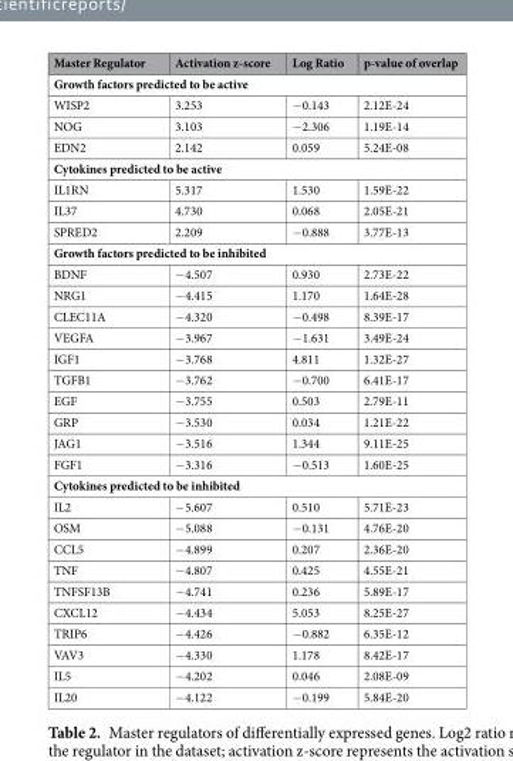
<table><thead><tr><td>Master Regulator</td><td>Activation z-score</td><td>Log Ratio</td><td>p-value of overlap</td></tr></thead><tbody><tr><td colspan="4">Growth factors predicted to be active</td></tr><tr><td>WISP2</td><td>3.253</td><td>−0.143</td><td>2.12E-24</td></tr><tr><td>NOG</td><td>3.103</td><td>−2.306</td><td>1.19E-14</td></tr><tr><td>EDN2</td><td>2.142</td><td>0.059</td><td>5.24E-08</td></tr><tr><td colspan="4">Cytokines predicted to be active</td></tr><tr><td>IL1RN</td><td>5.317</td><td>1.530</td><td>1.59E-22</td></tr><tr><td>IL37</td><td>4.730</td><td>0.068</td><td>2.05E-21</td></tr><tr><td>SPRED2</td><td>2.209</td><td>−0.888</td><td>3.77E-13</td></tr><tr><td colspan="4">Growth factors predicted to be inhibited</td></tr><tr><td>BDNF</td><td>−4.507</td><td>0.930</td><td>2.73E-22</td></tr><tr><td>NRG1</td><td>−4.415</td><td>1.170</td><td>1.64E-28</td></tr><tr><td>CLEC11A</td><td>−4.320</td><td>−0.498</td><td>8.39E-17</td></tr><tr><td>VEGFA</td><td>−3.967</td><td>−1.631</td><td>3.49E-24</td></tr><tr><td>IGF1</td><td>−3.768</td><td>4.811</td><td>1.32E-27</td></tr><tr><td>TGFB1</td><td>−3.762</td><td>−0.700</td><td>6.41E-17</td></tr><tr><td>EGF</td><td>−3.755</td><td>0.503</td><td>2.79E-11</td></tr><tr><td>GRP</td><td>−3.530</td><td>0.034</td><td>1.21E-22</td></tr><tr><td>JAG1</td><td>−3.516</td><td>1.344</td><td>9.11E-25</td></tr><tr><td>FGF1</td><td>−3.316</td><td>−0.513</td><td>1.60E-25</td></tr><tr><td colspan="4">Cytokines predicted to be inhibited</td></tr><tr><td>IL2</td><td>−5.607</td><td>0.510</td><td>5.71E-23</td></tr><tr><td>OSM</td><td>−5.088</td><td>−0.131</td><td>4.76E-20</td></tr><tr><td>CCL5</td><td>−4.899</td><td>0.207</td><td>2.36E-20</td></tr><tr><td>TNF</td><td>−4.807</td><td>0.425</td><td>4.55E-21</td></tr><tr><td>TNFSF13B</td><td>−4.741</td><td>0.236</td><td>5.89E-17</td></tr><tr><td>CXCL12</td><td>−4.434</td><td>5.053</td><td>8.25E-27</td></tr><tr><td>TRIP6</td><td>−4.426</td><td>−0.882</td><td>6.35E-12</td></tr><tr><td>VAV3</td><td>−4.330</td><td>1.178</td><td>8.42E-17</td></tr><tr><td>IL5</td><td>−4.202</td><td>0.046</td><td>2.08E-09</td></tr><tr><td>IL20</td><td>−4.122</td><td>−0.199</td><td>5.84E-20</td></tr></tbody></table>